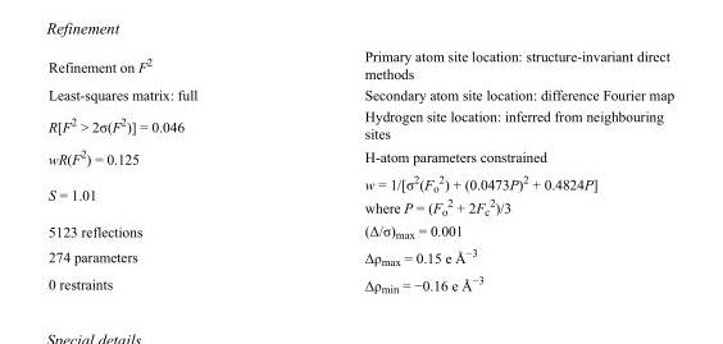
<table><tbody><tr><td>Refinement on F<sup>2</sup></td><td>Primary atom site location: structure-invariant direct methods</td></tr><tr><td>Least-squares matrix: full</td><td>Secondary atom site location: difference Fourier map</td></tr><tr><td>R[F<sup>2</sup> &gt; 2σ(F<sup>2</sup>)] = 0.046</td><td>Hydrogen site location: inferred from neighbouring sites</td></tr><tr><td>wR(F<sup>2</sup>) = 0.125</td><td>H-atom parameters constrained</td></tr><tr><td>S = 1.01</td><td>w = 1/[σ<sup>2</sup>(F<sub>o</sub> <sup>2</sup>) + (0.0473P)<sup>2</sup> + 0.4824P] where P = (F<sub>o</sub> <sup>2</sup> + 2F<sub>c</sub> <sup>2</sup>)/3</td></tr><tr><td>5123 reflections</td><td>(Δ/σ)<sub>max</sub> = 0.001</td></tr><tr><td>274 parameters</td><td>Δρ<sub>max</sub> = 0.15 e Å<sup>−3</sup></td></tr><tr><td>0 restraints</td><td>Δρ<sub>min</sub> = −0.16 e Å<sup>−3</sup></td></tr></tbody></table>